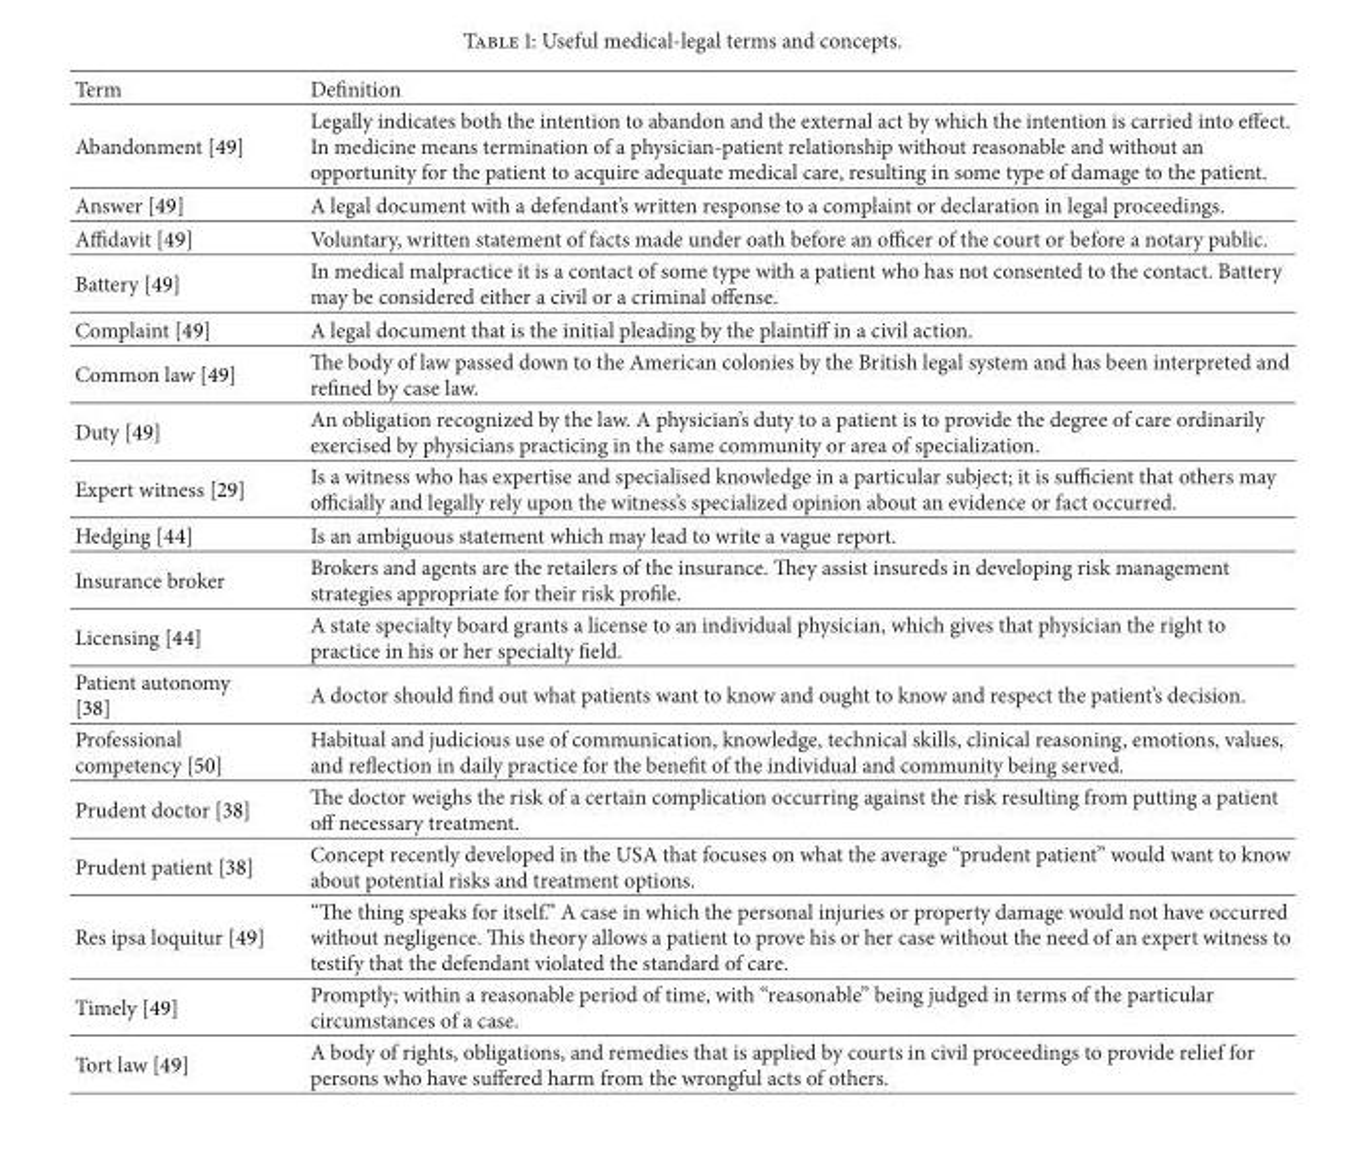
<table><thead><tr><td>Term</td><td>Definition</td></tr></thead><tbody><tr><td>Abandonment [49]</td><td>Legally indicates both the intention to abandon and the external act by which the intention is carried into effect. In medicine means termination of a physician-patient relationship without reasonable and without an opportunity for the patient to acquire adequate medical care, resulting in some type of damage to the patient.</td></tr><tr><td>Answer [49]</td><td>A legal document with a defendant’s written response to a complaint or declaration in legal proceedings.</td></tr><tr><td>Affidavit [49]</td><td>Voluntary, written statement of facts made under oath before an officer of the court or before a notary public.</td></tr><tr><td>Battery [49]</td><td>In medical malpractice it is a contact of some type with a patient who has not consented to the contact. Battery may be considered either a civil or a criminal offense.</td></tr><tr><td>Complaint [49]</td><td>A legal document that is the initial pleading by the plaintiff in a civil action.</td></tr><tr><td>Common law [49]</td><td>The body of law passed down to the American colonies by the British legal system and has been interpreted and refined by case law.</td></tr><tr><td>Duty [49]</td><td>An obligation recognized by the law. A physician’s duty to a patient is to provide the degree of care ordinarily exercised by physicians practicing in the same community or area of specialization.</td></tr><tr><td>Expert witness [29]</td><td>Is a witness who has expertise and specialised knowledge in a particular subject; it is sufficient that others may officially and legally rely upon the witness’s specialized opinion about an evidence or fact occurred.</td></tr><tr><td>Hedging [44]</td><td>Is an ambiguous statement which may lead to write a vague report.</td></tr><tr><td>Insurance broker</td><td>Brokers and agents are the retailers of the insurance. They assist insureds in developing risk management strategies appropriate for their risk profile.</td></tr><tr><td>Licensing [44]</td><td>A state specialty board grants a license to an individual physician, which gives that physician the right to practice in his or her specialty field.</td></tr><tr><td>Patient autonomy [38]</td><td>A doctor should find out what patients want to know and ought to know and respect the patient’s decision.</td></tr><tr><td>Professional competency [50]</td><td>Habitual and judicious use of communication, knowledge, technical skills, clinical reasoning, emotions, values, and reflection in daily practice for the benefit of the individual and community being served.</td></tr><tr><td>Prudent doctor [38]</td><td>The doctor weighs the risk of a certain complication occurring against the risk resulting from putting a patient off necessary treatment.</td></tr><tr><td>Prudent patient [38]</td><td>Concept recently developed in the USA that focuses on what the average “prudent patient” would want to know about potential risks and treatment options.</td></tr><tr><td>Res ipsa loquitur [49]</td><td>“The thing speaks for itself.” A case in which the personal injuries or property damage would not have occurred without negligence. This theory allows a patient to prove his or her case without the need of an expert witness to testify that the defendant violated the standard of care.</td></tr><tr><td>Timely [49]</td><td>Promptly; within a reasonable period of time, with “reasonable” being judged in terms of the particular circumstances of a case.</td></tr><tr><td>Tort law [49]</td><td>A body of rights, obligations, and remedies that is applied by courts in civil proceedings to provide relief for persons who have suffered harm from the wrongful acts of others.</td></tr></tbody></table>